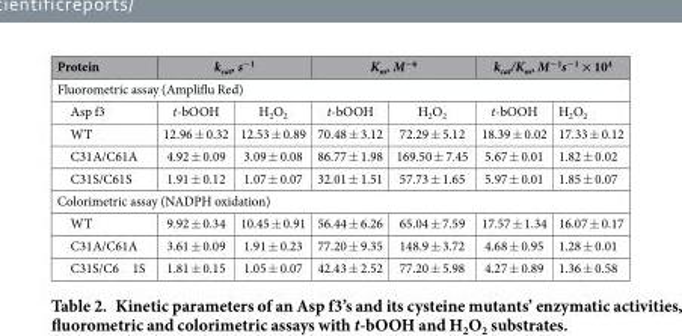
<table><thead><tr><td>Protein</td><td colspan="2">k<sub>cat</sub>, s<sup>−1</sup></td><td colspan="2">K<sub>m</sub>, M<sup>−6</sup></td><td colspan="2">k<sub>cat</sub>/K<sub>m</sub>, M<sup>−1</sup>s<sup>−1</sup> × 10<sup>4</sup></td></tr><tr><td colspan="7">Fluorometric assay (Ampliflu Red)</td></tr><tr><td>Asp f3</td><td>t-bOOH</td><td>H<sub>2</sub>O<sub>2</sub></td><td>t-bOOH</td><td>H<sub>2</sub>O<sub>2</sub></td><td>t-bOOH</td><td>H<sub>2</sub>O<sub>2</sub></td></tr></thead><tbody><tr><td>WT</td><td>12.96 ± 0.32</td><td>12.53 ± 0.89</td><td>70.48 ± 3.12</td><td>72.29 ± 5.12</td><td>18.39 ± 0.02</td><td>17.33 ± 0.12</td></tr><tr><td>C31A/C61A</td><td>4.92 ± 0.09</td><td>3.09 ± 0.08</td><td>86.77 ± 1.98</td><td>169.50 ± 7.45</td><td>5.67 ± 0.01</td><td>1.82 ± 0.02</td></tr><tr><td>C31S/C61S</td><td>1.91 ± 0.12</td><td>1.07 ± 0.07</td><td>32.01 ± 1.51</td><td>57.73 ± 1.65</td><td>5.97 ± 0.01</td><td>1.85 ± 0.07</td></tr><tr><td colspan="7">Colorimetric assay (NADPH oxidation)</td></tr><tr><td>WT</td><td>9.92 ± 0.34</td><td>10.45 ± 0.91</td><td>56.44 ± 6.26</td><td>65.04 ± 7.59</td><td>17.57 ± 1.34</td><td>16.07 ± 0.17</td></tr><tr><td>C31A/C61A</td><td>3.61 ± 0.09</td><td>1.91 ± 0.23</td><td>77.20 ± 9.35</td><td>148.9 ± 3.72</td><td>4.68 ± 0.95</td><td>1.28 ± 0.01</td></tr><tr><td>C31S/C6 1S</td><td>1.81 ± 0.15</td><td>1.05 ± 0.07</td><td>42.43 ± 2.52</td><td>77.20 ± 5.98</td><td>4.27 ± 0.89</td><td>1.36 ± 0.58</td></tr></tbody></table>